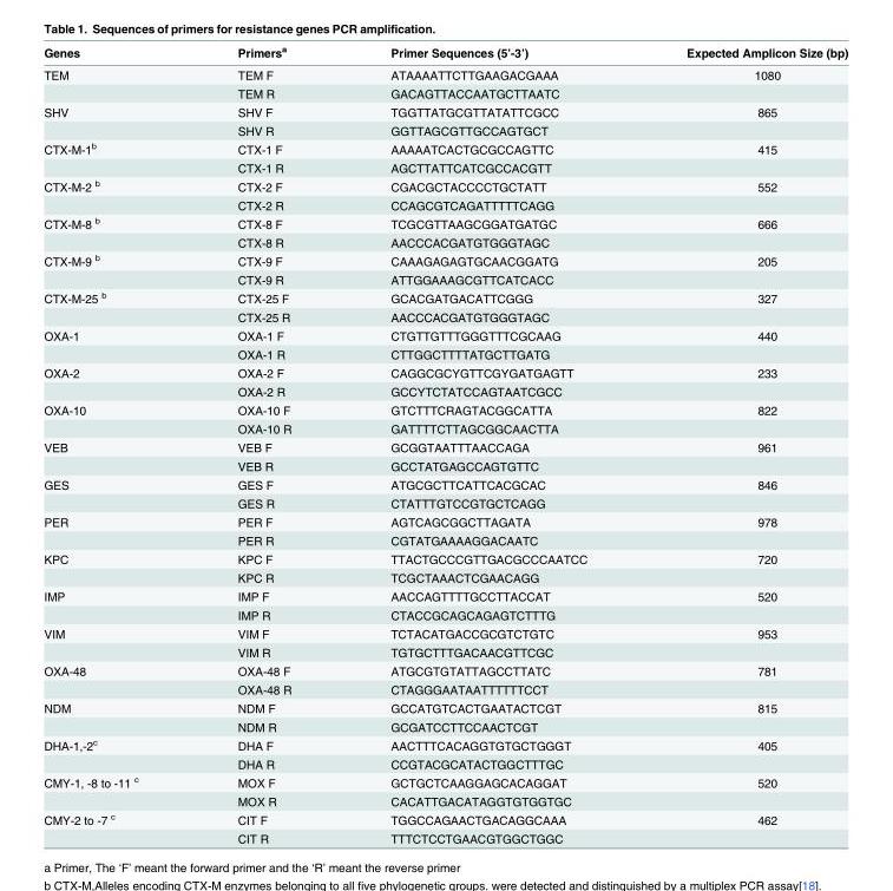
<table><thead><tr><td>Genes</td><td>Primers<sup>a</sup></td><td>Primer Sequences (5’-3’)</td><td>Expected Amplicon Size (bp)</td></tr></thead><tbody><tr><td rowspan="2">TEM</td><td>TEM F</td><td>ATAAAATTCTTGAAGACGAAA</td><td>1080</td></tr><tr><td>TEM R</td><td>GACAGTTACCAATGCTTAATC</td><td></td></tr><tr><td rowspan="2">SHV</td><td>SHV F</td><td>TGGTTATGCGTTATATTCGCC</td><td>865</td></tr><tr><td>SHV R</td><td>GGTTAGCGTTGCCAGTGCT</td><td></td></tr><tr><td rowspan="2">CTX-M-1<sup>b</sup></td><td>CTX-1 F</td><td>AAAAATCACTGCGCCAGTTC</td><td>415</td></tr><tr><td>CTX-1 R</td><td>AGCTTATTCATCGCCACGTT</td><td></td></tr><tr><td rowspan="2">CTX-M-2 <sup>b</sup></td><td>CTX-2 F</td><td>CGACGCTACCCCTGCTATT</td><td>552</td></tr><tr><td>CTX-2 R</td><td>CCAGCGTCAGATTTTTCAGG</td><td></td></tr><tr><td rowspan="2">CTX-M-8 <sup>b</sup></td><td>CTX-8 F</td><td>TCGCGTTAAGCGGATGATGC</td><td>666</td></tr><tr><td>CTX-8 R</td><td>AACCCACGATGTGGGTAGC</td><td></td></tr><tr><td rowspan="2">CTX-M-9 <sup>b</sup></td><td>CTX-9 F</td><td>CAAAGAGAGTGCAACGGATG</td><td>205</td></tr><tr><td>CTX-9 R</td><td>ATTGGAAAGCGTTCATCACC</td><td></td></tr><tr><td rowspan="2">CTX-M-25 <sup>b</sup></td><td>CTX-25 F</td><td>GCACGATGACATTCGGG</td><td>327</td></tr><tr><td>CTX-25 R</td><td>AACCCACGATGTGGGTAGC</td><td></td></tr><tr><td rowspan="2">OXA-1</td><td>OXA-1 F</td><td>CTGTTGTTTGGGTTTCGCAAG</td><td>440</td></tr><tr><td>OXA-1 R</td><td>CTTGGCTTTTATGCTTGATG</td><td></td></tr><tr><td rowspan="2">OXA-2</td><td>OXA-2 F</td><td>CAGGCGCYGTTCGYGATGAGTT</td><td>233</td></tr><tr><td>OXA-2 R</td><td>GCCYTCTATCCAGTAATCGCC</td><td></td></tr><tr><td rowspan="2">OXA-10</td><td>OXA-10 F</td><td>GTCTTTCRAGTACGGCATTA</td><td>822</td></tr><tr><td>OXA-10 R</td><td>GATTTTCTTAGCGGCAACTTA</td><td></td></tr><tr><td rowspan="2">VEB</td><td>VEB F</td><td>GCGGTAATTTAACCAGA</td><td>961</td></tr><tr><td>VEB R</td><td>GCCTATGAGCCAGTGTTC</td><td></td></tr><tr><td rowspan="2">GES</td><td>GES F</td><td>ATGCGCTTCATTCACGCAC</td><td>846</td></tr><tr><td>GES R</td><td>CTATTTGTCCGTGCTCAGG</td><td></td></tr><tr><td rowspan="2">PER</td><td>PER F</td><td>AGTCAGCGGCTTAGATA</td><td>978</td></tr><tr><td>PER R</td><td>CGTATGAAAAGGACAATC</td><td></td></tr><tr><td rowspan="2">KPC</td><td>KPC F</td><td>TTACTGCCCGTTGACGCCCAATCC</td><td>720</td></tr><tr><td>KPC R</td><td>TCGCTAAACTCGAACAGG</td><td></td></tr><tr><td rowspan="2">IMP</td><td>IMP F</td><td>AACCAGTTTTGCCTTACCAT</td><td>520</td></tr><tr><td>IMP R</td><td>CTACCGCAGCAGAGTCTTTG</td><td></td></tr><tr><td rowspan="2">VIM</td><td>VIM F</td><td>TCTACATGACCGCGTCTGTC</td><td>953</td></tr><tr><td>VIM R</td><td>TGTGCTTTGACAACGTTCGC</td><td></td></tr><tr><td rowspan="2">OXA-48</td><td>OXA-48 F</td><td>ATGCGTGTATTAGCCTTATC</td><td>781</td></tr><tr><td>OXA-48 R</td><td>CTAGGGAATAATTTTTTCCT</td><td></td></tr><tr><td rowspan="2">NDM</td><td>NDM F</td><td>GCCATGTCACTGAATACTCGT</td><td>815</td></tr><tr><td>NDM R</td><td>GCGATCCTTCCAACTCGT</td><td></td></tr><tr><td rowspan="2">DHA-1,-2<sup>c</sup></td><td>DHA F</td><td>AACTTTCACAGGTGTGCTGGGT</td><td>405</td></tr><tr><td>DHA R</td><td>CCGTACGCATACTGGCTTTGC</td><td></td></tr><tr><td rowspan="2">CMY-1, -8 to -11 <sup>c</sup></td><td>MOX F</td><td>GCTGCTCAAGGAGCACAGGAT</td><td>520</td></tr><tr><td>MOX R</td><td>CACATTGACATAGGTGTGGTGC</td><td></td></tr><tr><td rowspan="2">CMY-2 to -7 <sup>c</sup></td><td>CIT F</td><td>TGGCCAGAACTGACAGGCAAA</td><td>462</td></tr><tr><td>CIT R</td><td>TTTCTCCTGAACGTGGCTGGC</td><td></td></tr></tbody></table>